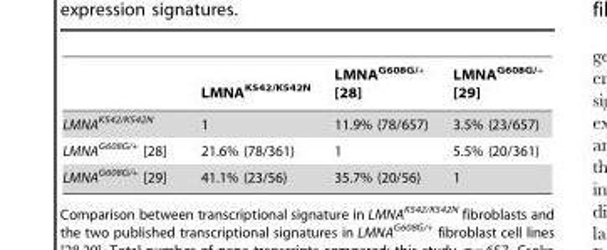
<table><thead><tr><td></td><td>LMNA<sup>K542/K542N</sup></td><td>LMNA<sup>G608G/+</sup> [28]</td><td>LMNA<sup>G608G/+</sup> [29]</td></tr></thead><tbody><tr><td>LMNA<sup>K542/K542N</sup></td><td>1</td><td>11.9% (78/657)</td><td>3.5% (23/657)</td></tr><tr><td>LMNA<sup>G608G/+</sup> [28]</td><td>21.6% (78/361)</td><td>1</td><td>5.5% (20/361)</td></tr><tr><td>LMNA<sup>G608G/+</sup> [29]</td><td>41.1% (23/56)</td><td>35.7% (20/56)</td><td>1</td></tr></tbody></table>